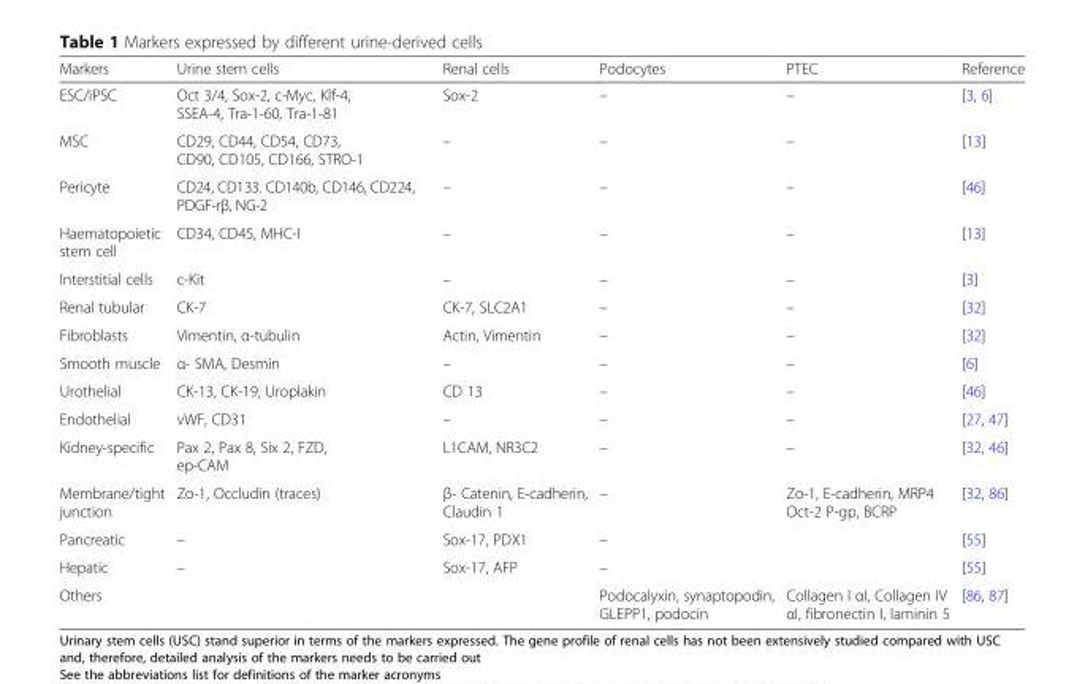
<table><thead><tr><td>Markers</td><td>Urine stem cells</td><td>Renal cells</td><td>Podocytes</td><td>PTEC</td><td>Reference</td></tr></thead><tbody><tr><td>ESC/iPSC</td><td>Oct 3/4, Sox-2, c-Myc, Klf-4, SSEA-4, Tra-1-60, Tra-1-81</td><td>Sox-2</td><td>–</td><td>–</td><td>[3, 6]</td></tr><tr><td>MSC</td><td>CD29, CD44, CD54, CD73, CD90, CD105, CD166, STRO-1</td><td>–</td><td>–</td><td>–</td><td>[13]</td></tr><tr><td>Pericyte</td><td>CD24, CD133. CD140b, CD146, CD224, PDGF-rβ, NG-2</td><td>–</td><td>–</td><td>–</td><td>[46]</td></tr><tr><td>Haematopoietic stem cell</td><td>CD34, CD45, MHC-I</td><td>–</td><td>–</td><td>–</td><td>[13]</td></tr><tr><td>Interstitial cells</td><td>c-Kit</td><td>–</td><td>–</td><td>–</td><td>[3]</td></tr><tr><td>Renal tubular</td><td>CK-7</td><td>CK-7, SLC2A1</td><td>–</td><td>–</td><td>[32]</td></tr><tr><td>Fibroblasts</td><td>Vimentin, α-tubulin</td><td>Actin, Vimentin</td><td>–</td><td>–</td><td>[32]</td></tr><tr><td>Smooth muscle</td><td>α- SMA, Desmin</td><td>–</td><td>–</td><td>–</td><td>[6]</td></tr><tr><td>Urothelial</td><td>CK-13, CK-19, Uroplakin</td><td>CD 13</td><td>–</td><td>–</td><td>[46]</td></tr><tr><td>Endothelial</td><td>vWF, CD31</td><td>–</td><td>–</td><td>–</td><td>[27, 47]</td></tr><tr><td>Kidney-specific</td><td>Pax 2, Pax 8, Six 2, FZD, ep-CAM</td><td>L1CAM, NR3C2</td><td>–</td><td>–</td><td>[32, 46]</td></tr><tr><td>Membrane/tight junction</td><td>Zo-1, Occludin (traces)</td><td>β- Catenin, E-cadherin, Claudin 1</td><td>–</td><td>Zo-1, E-cadherin, MRP4 Oct-2 P-gp, BCRP</td><td>[32, 86]</td></tr><tr><td>Pancreatic</td><td>–</td><td>Sox-17, PDX1</td><td>–</td><td></td><td>[55]</td></tr><tr><td>Hepatic</td><td>–</td><td>Sox-17, AFP</td><td>–</td><td></td><td>[55]</td></tr><tr><td>Others</td><td></td><td></td><td>Podocalyxin, synaptopodin, GLEPP1, podocin</td><td>Collagen I αI, Collagen IV αI, fibronectin I, laminin 5</td><td>[86, 87]</td></tr></tbody></table>